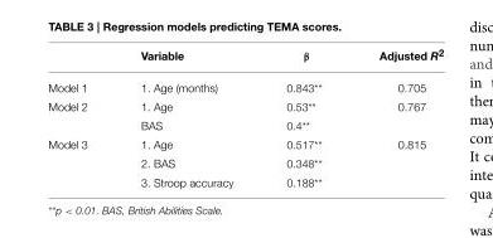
<table><thead><tr><td></td><td>Variable</td><td>β</td><td>Adjusted R<sup>2</sup></td></tr></thead><tbody><tr><td>Model 1</td><td>1. Age (months)</td><td>0.843**</td><td>0.705</td></tr><tr><td rowspan="2">Model 2</td><td>1. Age</td><td>0.53**</td><td>0.767</td></tr><tr><td>BAS</td><td>0.4**</td><td></td></tr><tr><td rowspan="3">Model 3</td><td>1. Age</td><td>0.517**</td><td>0.815</td></tr><tr><td>2. BAS</td><td>0.348**</td><td></td></tr><tr><td>3. Stroop accuracy</td><td>0.188**</td><td></td></tr></tbody></table>